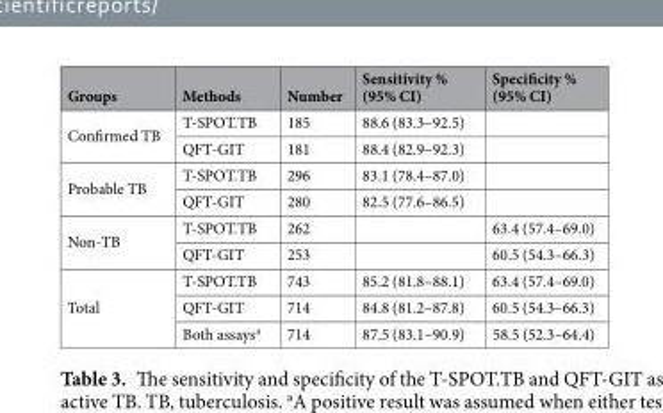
<table><thead><tr><td>Groups</td><td>Methods</td><td>Number</td><td>Sensitivity % (95% CI)</td><td>Specificity % (95% CI)</td></tr></thead><tbody><tr><td rowspan="2">Confirmed TB</td><td>T-SPOT.TB</td><td>185</td><td>88.6 (83.3–92.5)</td><td></td></tr><tr><td>QFT-GIT</td><td>181</td><td>88.4 (82.9–92.3)</td><td></td></tr><tr><td rowspan="2">Probable TB</td><td>T-SPOT.TB</td><td>296</td><td>83.1 (78.4–87.0)</td><td></td></tr><tr><td>QFT-GIT</td><td>280</td><td>82.5 (77.6–86.5)</td><td></td></tr><tr><td rowspan="2">Non-TB</td><td>T-SPOT.TB</td><td>262</td><td></td><td>63.4 (57.4–69.0)</td></tr><tr><td>QFT-GIT</td><td>253</td><td></td><td>60.5 (54.3–66.3)</td></tr><tr><td rowspan="3">Total</td><td>T-SPOT.TB</td><td>743</td><td>85.2 (81.8–88.1)</td><td>63.4 (57.4–69.0)</td></tr><tr><td>QFT-GIT</td><td>714</td><td>84.8 (81.2–87.8)</td><td>60.5 (54.3–66.3)</td></tr><tr><td>Both assays<sup>a</sup></td><td>714</td><td>87.5 (83.1–90.9)</td><td>58.5 (52.3–64.4)</td></tr></tbody></table>